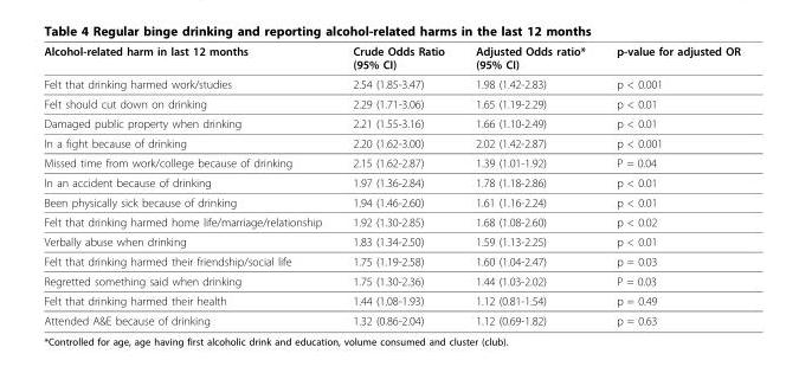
<table><thead><tr><td>Alcohol-related harm in last 12 months</td><td>Crude Odds Ratio (95% CI)</td><td>Adjusted Odds ratio* (95% CI)</td><td>p-value for adjusted OR</td></tr></thead><tbody><tr><td>Felt that drinking harmed work/studies</td><td>2.54 (1.85-3.47)</td><td>1.98 (1.42-2.83)</td><td>p &lt; 0.001</td></tr><tr><td>Felt should cut down on drinking</td><td>2.29 (1.71-3.06)</td><td>1.65 (1.19-2.29)</td><td>p &lt; 0.01</td></tr><tr><td>Damaged public property when drinking</td><td>2.21 (1.55-3.16)</td><td>1.66 (1.10-2.49)</td><td>p &lt; 0.01</td></tr><tr><td>In a fight because of drinking</td><td>2.20 (1.62-3.00)</td><td>2.02 (1.42-2.87)</td><td>p &lt; 0.001</td></tr><tr><td>Missed time from work/college because of drinking</td><td>2.15 (1.62-2.87)</td><td>1.39 (1.01-1.92)</td><td>P = 0.04</td></tr><tr><td>In an accident because of drinking</td><td>1.97 (1.36-2.84)</td><td>1.78 (1.18-2.86)</td><td>p &lt; 0.01</td></tr><tr><td>Been physically sick because of drinking</td><td>1.94 (1.46-2.60)</td><td>1.61 (1.16-2.24)</td><td>p &lt; 0.01</td></tr><tr><td>Felt that drinking harmed home life/marriage/relationship</td><td>1.92 (1.30-2.85)</td><td>1.68 (1.08-2.60)</td><td>p &lt; 0.02</td></tr><tr><td>Verbally abuse when drinking</td><td>1.83 (1.34-2.50)</td><td>1.59 (1.13-2.25)</td><td>p &lt; 0.01</td></tr><tr><td>Felt that drinking harmed their friendship/social life</td><td>1.75 (1.19-2.58)</td><td>1.60 (1.04-2.47)</td><td>p = 0.03</td></tr><tr><td>Regretted something said when drinking</td><td>1.75 (1.30-2.36)</td><td>1.44 (1.03-2.02)</td><td>P = 0.03</td></tr><tr><td>Felt that drinking harmed their health</td><td>1.44 (1.08-1.93)</td><td>1.12 (0.81-1.54)</td><td>p = 0.49</td></tr><tr><td>Attended A&amp;E because of drinking</td><td>1.32 (0.86-2.04)</td><td>1.12 (0.69-1.82)</td><td>p = 0.63</td></tr></tbody></table>